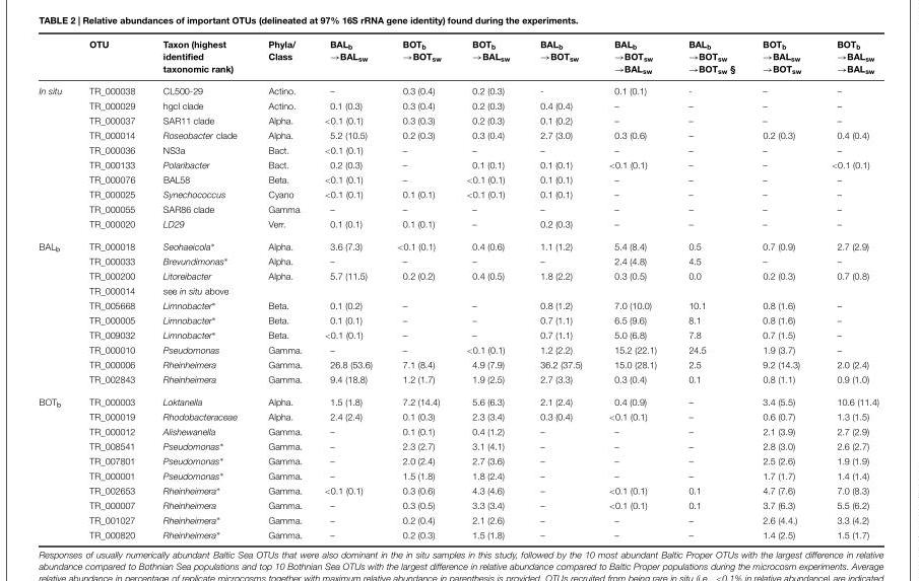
<table><thead><tr><td></td><td>OTU</td><td>Taxon (highest identified taxonomic rank)</td><td>Phyla/ Class</td><td>BAL<sub>b</sub> →BAL<sub>sw</sub></td><td>BOT<sub>b</sub> →BOT<sub>sw</sub></td><td>BOT<sub>b</sub> →BAL<sub>sw</sub></td><td>BAL<sub>b</sub> →BOT<sub>sw</sub></td><td>BAL<sub>b</sub> →BOT<sub>sw</sub> →BAL<sub>sw</sub></td><td>BAL<sub>b</sub> →BOT<sub>sw</sub> →BOT<sub>sw</sub> §</td><td>BOT<sub>b</sub> →BAL<sub>sw</sub> →BOT<sub>sw</sub></td><td>BOT<sub>b</sub> →BAL<sub>sw</sub> →BAL<sub>sw</sub></td></tr></thead><tbody><tr><td rowspan="10">In situ</td><td>TR_000038</td><td>CL500-29</td><td>Actino.</td><td>–</td><td>0.3 (0.4)</td><td>0.2 (0.3)</td><td>-</td><td>0.1 (0.1)</td><td>-</td><td>–</td><td>–</td></tr><tr><td>TR_000029</td><td>hgcI clade</td><td>Actino.</td><td>0.1 (0.3)</td><td>0.3 (0.4)</td><td>0.2 (0.3)</td><td>0.4 (0.4)</td><td>–</td><td>–</td><td>–</td><td>–</td></tr><tr><td>TR_000037</td><td>SAR11 clade</td><td>Alpha.</td><td>&lt;0.1 (0.1)</td><td>0.3 (0.3)</td><td>0.2 (0.3)</td><td>0.1 (0.2)</td><td>–</td><td>–</td><td>–</td><td>–</td></tr><tr><td>TR_000014</td><td>Roseobacter clade</td><td>Alpha.</td><td>5.2 (10.5)</td><td>0.2 (0.3)</td><td>0.3 (0.4)</td><td>2.7 (3.0)</td><td>0.3 (0.6)</td><td>–</td><td>0.2 (0.3)</td><td>0.4 (0.4)</td></tr><tr><td>TR_000036</td><td>NS3a</td><td>Bact.</td><td>&lt;0.1 (0.1)</td><td>–</td><td>–</td><td>–</td><td>–</td><td>–</td><td>–</td><td>–</td></tr><tr><td>TR_000133</td><td>Polaribacter</td><td>Bact.</td><td>0.2 (0.3)</td><td>–</td><td>0.1 (0.1)</td><td>0.1 (0.1)</td><td>&lt;0.1 (0.1)</td><td>–</td><td>–</td><td>&lt;0.1 (0.1)</td></tr><tr><td>TR_000076</td><td>BAL58</td><td>Beta.</td><td>&lt;0.1 (0.1)</td><td>–</td><td>&lt;0.1 (0.1)</td><td>0.1 (0.1)</td><td>–</td><td>–</td><td>–</td><td>–</td></tr><tr><td>TR_000025</td><td>Synechococcus</td><td>Cyano</td><td>&lt;0.1 (0.1)</td><td>0.1 (0.1)</td><td>&lt;0.1 (0.1)</td><td>0.1 (0.1)</td><td>–</td><td>–</td><td>–</td><td>–</td></tr><tr><td>TR_000055</td><td>SAR86 clade</td><td>Gamma</td><td>–</td><td>–</td><td>–</td><td>–</td><td>–</td><td>–</td><td>–</td><td>–</td></tr><tr><td>TR_000020</td><td>LD29</td><td>Verr.</td><td>0.1 (0.1)</td><td>0.1 (0.1)</td><td>–</td><td>0.2 (0.3)</td><td>–</td><td>–</td><td>–</td><td>–</td></tr><tr><td rowspan="10">BAL<sub>b</sub></td><td>TR_000018</td><td>Seohaeicola∗</td><td>Alpha.</td><td>3.6 (7.3)</td><td>&lt;0.1 (0.1)</td><td>0.4 (0.6)</td><td>1.1 (1.2)</td><td>5.4 (8.4)</td><td>0.5</td><td>0.7 (0.9)</td><td>2.7 (2.9)</td></tr><tr><td>TR_000033</td><td>Brevundimonas∗</td><td>Alpha.</td><td>–</td><td>–</td><td>–</td><td>–</td><td>2.4 (4.8)</td><td>4.5</td><td>–</td><td>–</td></tr><tr><td>TR_000200</td><td>Litoreibacter</td><td>Alpha.</td><td>5.7 (11.5)</td><td>0.2 (0.2)</td><td>0.4 (0.5)</td><td>1.8 (2.2)</td><td>0.3 (0.5)</td><td>0.0</td><td>0.2 (0.3)</td><td>0.7 (0.8)</td></tr><tr><td>TR_000014</td><td>see in situ above</td><td></td><td></td><td></td><td></td><td></td><td></td><td></td><td></td><td></td></tr><tr><td>TR_005668</td><td>Limnobacter∗</td><td>Beta.</td><td>0.1 (0.2)</td><td>–</td><td>–</td><td>0.8 (1.2)</td><td>7.0 (10.0)</td><td>10.1</td><td>0.8 (1.6)</td><td>–</td></tr><tr><td>TR_000005</td><td>Limnobacter∗</td><td>Beta.</td><td>0.1 (0.1)</td><td>–</td><td>–</td><td>0.7 (1.1)</td><td>6.5 (9.6)</td><td>8.1</td><td>0.8 (1.6)</td><td>–</td></tr><tr><td>TR_009032</td><td>Limnobacter∗</td><td>Beta.</td><td>&lt;0.1 (0.1)</td><td>–</td><td>–</td><td>0.7 (1.1)</td><td>5.0 (6.8)</td><td>7.8</td><td>0.7 (1.5)</td><td>–</td></tr><tr><td>TR_000010</td><td>Pseudomonas</td><td>Gamma.</td><td>–</td><td>–</td><td>&lt;0.1 (0.1)</td><td>1.2 (2.2)</td><td>15.2 (22.1)</td><td>24.5</td><td>1.9 (3.7)</td><td>–</td></tr><tr><td>TR_000006</td><td>Rheinheimera</td><td>Gamma.</td><td>26.8 (53.6)</td><td>7.1 (8.4)</td><td>4.9 (7.9)</td><td>36.2 (37.5)</td><td>15.0 (28.1)</td><td>2.5</td><td>9.2 (14.3)</td><td>2.0 (2.4)</td></tr><tr><td>TR_002843</td><td>Rheinheimera</td><td>Gamma.</td><td>9.4 (18.8)</td><td>1.2 (1.7)</td><td>1.9 (2.5)</td><td>2.7 (3.3)</td><td>0.3 (0.4)</td><td>0.1</td><td>0.8 (1.1)</td><td>0.9 (1.0)</td></tr><tr><td rowspan="10">BOT<sub>b</sub></td><td>TR_000003</td><td>Loktanella</td><td>Alpha.</td><td>1.5 (1.8)</td><td>7.2 (14.4)</td><td>5.6 (6.3)</td><td>2.1 (2.4)</td><td>0.4 (0.9)</td><td>–</td><td>3.4 (5.5)</td><td>10.6 (11.4)</td></tr><tr><td>TR_000019</td><td>Rhodobacteraceae</td><td>Alpha.</td><td>2.4 (2.4)</td><td>0.1 (0.3)</td><td>2.3 (3.4)</td><td>0.3 (0.4)</td><td>&lt;0.1 (0.1)</td><td>–</td><td>0.6 (0.7)</td><td>1.3 (1.5)</td></tr><tr><td>TR_000012</td><td>Alishewanella</td><td>Gamma.</td><td>–</td><td>0.1 (0.1)</td><td>0.4 (1.2)</td><td>–</td><td>–</td><td>–</td><td>2.1 (3.9)</td><td>2.7 (2.9)</td></tr><tr><td>TR_008541</td><td>Pseudomonas∗</td><td>Gamma.</td><td>–</td><td>2.3 (2.7)</td><td>3.1 (4.1)</td><td>–</td><td>–</td><td>–</td><td>2.8 (3.0)</td><td>2.6 (2.7)</td></tr><tr><td>TR_007801</td><td>Pseudomonas∗</td><td>Gamma.</td><td>–</td><td>2.0 (2.4)</td><td>2.7 (3.6)</td><td>–</td><td>–</td><td>–</td><td>2.5 (2.6)</td><td>1.9 (1.9)</td></tr><tr><td>TR_000001</td><td>Pseudomonas∗</td><td>Gamma.</td><td>–</td><td>1.5 (1.8)</td><td>1.8 (2.4)</td><td>–</td><td>–</td><td>–</td><td>1.7 (1.7)</td><td>1.4 (1.4)</td></tr><tr><td>TR_002653</td><td>Rheinheimera∗</td><td>Gamma.</td><td>&lt;0.1 (0.1)</td><td>0.3 (0.6)</td><td>4.3 (4.6)</td><td>–</td><td>&lt;0.1 (0.1)</td><td>0.1</td><td>4.7 (7.6)</td><td>7.0 (8.3)</td></tr><tr><td>TR_000007</td><td>Rheinheimera</td><td>Gamma.</td><td>–</td><td>0.3 (0.5)</td><td>3.3 (3.4)</td><td>–</td><td>&lt;0.1 (0.1)</td><td>0.1</td><td>3.7 (6.3)</td><td>5.5 (6.2)</td></tr><tr><td>TR_001027</td><td>Rheinheimera∗</td><td>Gamma.</td><td>–</td><td>0.2 (0.4)</td><td>2.1 (2.6)</td><td>–</td><td>–</td><td>–</td><td>2.6 (4.4.)</td><td>3.3 (4.2)</td></tr><tr><td>TR_000820</td><td>Rheinheimera∗</td><td>Gamma.</td><td>–</td><td>0.2 (0.3)</td><td>1.5 (1.8)</td><td>–</td><td>–</td><td>–</td><td>1.4 (2.5)</td><td>1.5 (1.7)</td></tr></tbody></table>